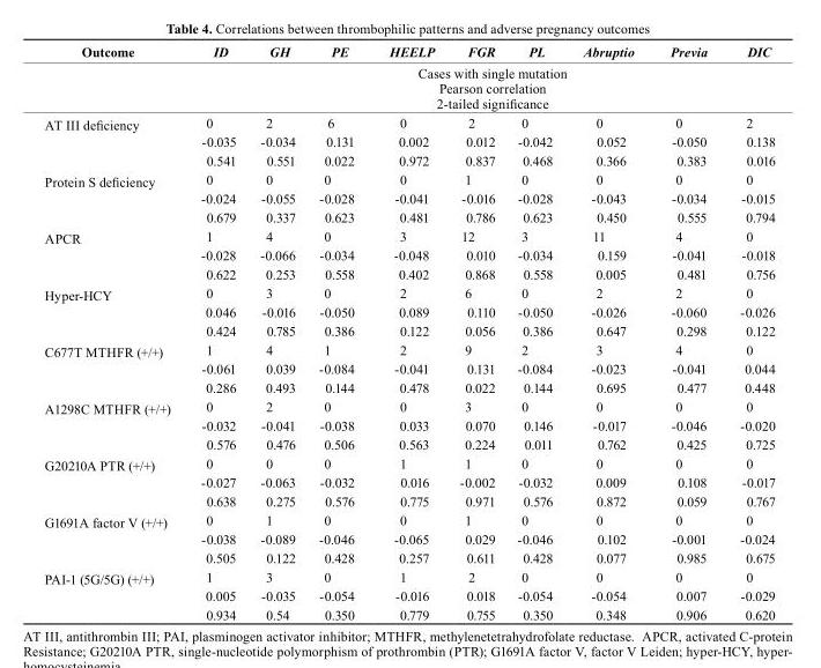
<table><thead><tr><td>Outcome</td><td>ID</td><td>GH</td><td>PE</td><td>HEELP</td><td>FGR</td><td>PL</td><td>Abruptio</td><td>Previa</td><td>DIC</td></tr></thead><tbody><tr><td></td><td colspan="9">Cases with single mutation Pearson correlation 2-tailed significance</td></tr><tr><td rowspan="3">AT III deficiency</td><td>0</td><td>2</td><td>6</td><td>0</td><td>2</td><td>0</td><td>0</td><td>0</td><td>2</td></tr><tr><td>-0.035</td><td>-0.034</td><td>0.131</td><td>0.002</td><td>0.012</td><td>-0.042</td><td>0.052</td><td>-0.050</td><td>0.138</td></tr><tr><td>0.541</td><td>0.551</td><td>0.022</td><td>0.972</td><td>0.837</td><td>0.468</td><td>0.366</td><td>0.383</td><td>0.016</td></tr><tr><td rowspan="3">Protein S deficiency</td><td>0</td><td>0</td><td>0</td><td>0</td><td>1</td><td>0</td><td>0</td><td>0</td><td>0</td></tr><tr><td>-0.024</td><td>-0.055</td><td>-0.028</td><td>-0.041</td><td>-0.016</td><td>-0.028</td><td>-0.043</td><td>-0.034</td><td>-0.015</td></tr><tr><td>0.679</td><td>0.337</td><td>0.623</td><td>0.481</td><td>0.786</td><td>0.623</td><td>0.450</td><td>0.555</td><td>0.794</td></tr><tr><td rowspan="3">APCR</td><td>1</td><td>4</td><td>0</td><td>3</td><td>12</td><td>3</td><td>11</td><td>4</td><td>0</td></tr><tr><td>-0.028</td><td>-0.066</td><td>-0.034</td><td>-0.048</td><td>0.010</td><td>-0.034</td><td>0.159</td><td>-0.041</td><td>-0.018</td></tr><tr><td>0.622</td><td>0.253</td><td>0.558</td><td>0.402</td><td>0.868</td><td>0.558</td><td>0.005</td><td>0.481</td><td>0.756</td></tr><tr><td rowspan="3">Hyper-HCY</td><td>0</td><td>3</td><td>0</td><td>2</td><td>6</td><td>0</td><td>2</td><td>2</td><td>0</td></tr><tr><td>0.046</td><td>-0.016</td><td>-0.050</td><td>0.089</td><td>0.110</td><td>-0.050</td><td>-0.026</td><td>-0.060</td><td>-0.026</td></tr><tr><td>0.424</td><td>0.785</td><td>0.386</td><td>0.122</td><td>0.056</td><td>0.386</td><td>0.647</td><td>0.298</td><td>0.122</td></tr><tr><td rowspan="3">C677T MTHFR (+/+)</td><td>1</td><td>4</td><td>1</td><td>2</td><td>9</td><td>2</td><td>3</td><td>4</td><td>0</td></tr><tr><td>-0.061</td><td>0.039</td><td>-0.084</td><td>-0.041</td><td>0.131</td><td>-0.084</td><td>-0.023</td><td>-0.041</td><td>0.044</td></tr><tr><td>0.286</td><td>0.493</td><td>0.144</td><td>0.478</td><td>0.022</td><td>0.144</td><td>0.695</td><td>0.477</td><td>0.448</td></tr><tr><td rowspan="3">A1298C MTHFR (+/+)</td><td>0</td><td>2</td><td>0</td><td>0</td><td>3</td><td>0</td><td>0</td><td>0</td><td>0</td></tr><tr><td>-0.032</td><td>-0.041</td><td>-0.038</td><td>0.033</td><td>0.070</td><td>0.146</td><td>-0.017</td><td>-0.046</td><td>-0.020</td></tr><tr><td>0.576</td><td>0.476</td><td>0.506</td><td>0.563</td><td>0.224</td><td>0.011</td><td>0.762</td><td>0.425</td><td>0.725</td></tr><tr><td rowspan="3">G20210A PTR (+/+)</td><td>0</td><td>0</td><td>0</td><td>1</td><td>1</td><td>0</td><td>0</td><td>0</td><td>0</td></tr><tr><td>-0.027</td><td>-0.063</td><td>-0.032</td><td>0.016</td><td>-0.002</td><td>-0.032</td><td>0.009</td><td>0.108</td><td>-0.017</td></tr><tr><td>0.638</td><td>0.275</td><td>0.576</td><td>0.775</td><td>0.971</td><td>0.576</td><td>0.872</td><td>0.059</td><td>0.767</td></tr><tr><td rowspan="3">G1691A factor V (+/+)</td><td>0</td><td>1</td><td>0</td><td>0</td><td>1</td><td>0</td><td>0</td><td>0</td><td>0</td></tr><tr><td>-0.038</td><td>-0.089</td><td>-0.046</td><td>-0.065</td><td>0.029</td><td>-0.046</td><td>0.102</td><td>-0.001</td><td>-0.024</td></tr><tr><td>0.505</td><td>0.122</td><td>0.428</td><td>0.257</td><td>0.611</td><td>0.428</td><td>0.077</td><td>0.985</td><td>0.675</td></tr><tr><td rowspan="3">PAI-1 (5G/5G) (+/+)</td><td>1</td><td>3</td><td>0</td><td>1</td><td>2</td><td>0</td><td>0</td><td>0</td><td>0</td></tr><tr><td>0.005</td><td>-0.035</td><td>-0.054</td><td>-0.016</td><td>0.018</td><td>-0.054</td><td>-0.054</td><td>0.007</td><td>-0.029</td></tr><tr><td>0.934</td><td>0.54</td><td>0.350</td><td>0.779</td><td>0.755</td><td>0.350</td><td>0.348</td><td>0.906</td><td>0.620</td></tr></tbody></table>